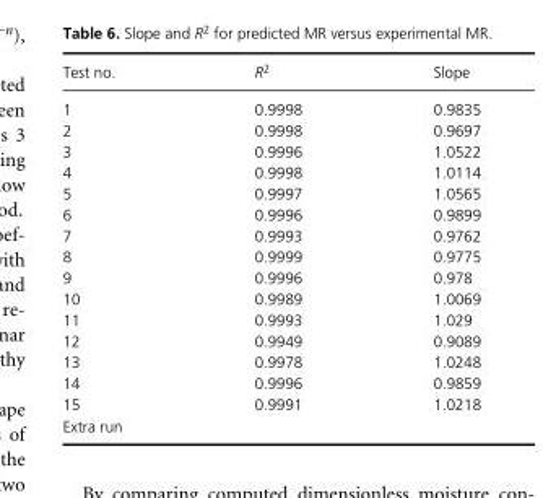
<table><thead><tr><td>Test no.</td><td>R<sup>2</sup></td><td>Slope</td></tr></thead><tbody><tr><td>1</td><td>0.9998</td><td>0.9835</td></tr><tr><td>2</td><td>0.9998</td><td>0.9697</td></tr><tr><td>3</td><td>0.9996</td><td>1.0522</td></tr><tr><td>4</td><td>0.9998</td><td>1.0114</td></tr><tr><td>5</td><td>0.9997</td><td>1.0565</td></tr><tr><td>6</td><td>0.9996</td><td>0.9899</td></tr><tr><td>7</td><td>0.9993</td><td>0.9762</td></tr><tr><td>8</td><td>0.9999</td><td>0.9775</td></tr><tr><td>9</td><td>0.9996</td><td>0.978</td></tr><tr><td>10</td><td>0.9989</td><td>1.0069</td></tr><tr><td>11</td><td>0.9993</td><td>1.029</td></tr><tr><td>12</td><td>0.9949</td><td>0.9089</td></tr><tr><td>13</td><td>0.9978</td><td>1.0248</td></tr><tr><td>14</td><td>0.9996</td><td>0.9859</td></tr><tr><td>15 Extra run</td><td>0.9991</td><td>1.0218</td></tr></tbody></table>